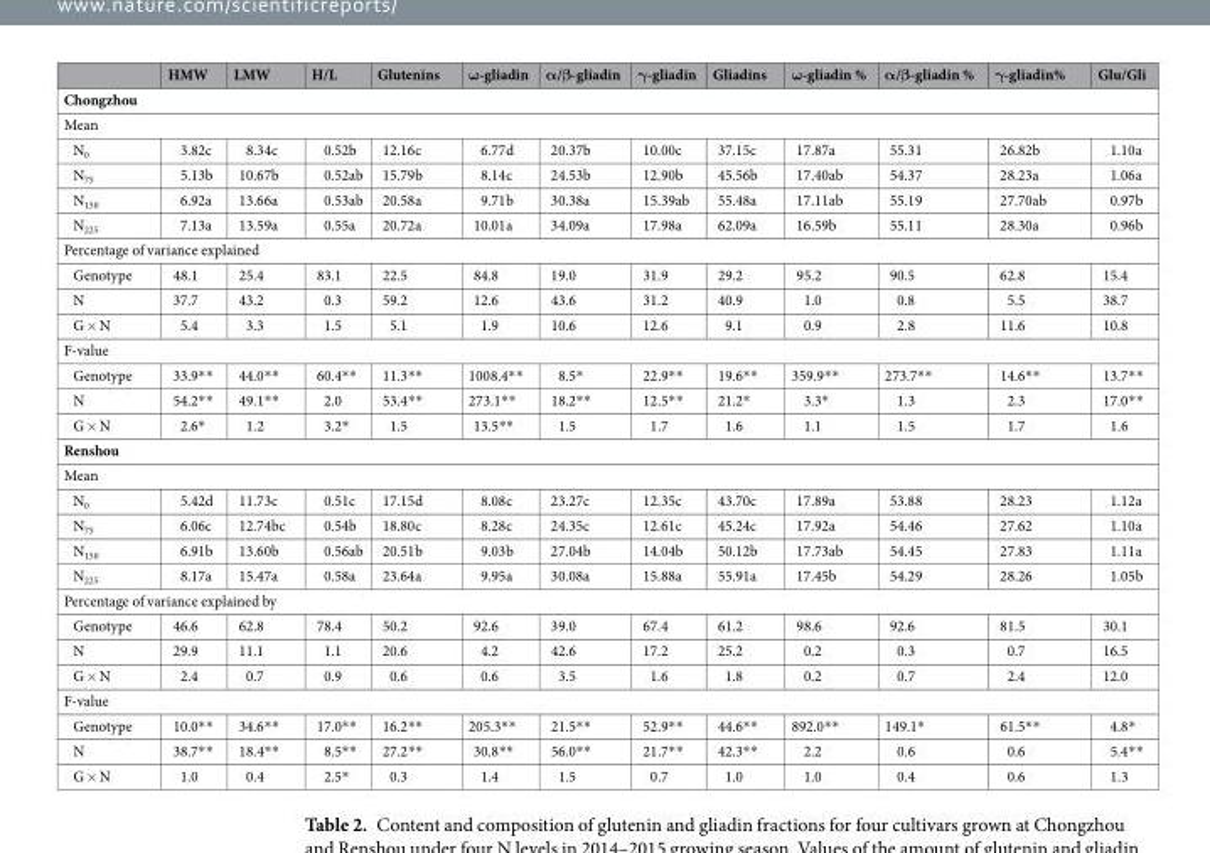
<table><thead><tr><td></td><td>HMW</td><td>LMW</td><td>H/L</td><td>Glutenins</td><td>ω-gliadin</td><td>α/β-gliadin</td><td>γ-gliadin</td><td>Gliadins</td><td>ω-gliadin %</td><td>α/β-gliadin %</td><td>γ-gliadin%</td><td>Glu/Gli</td></tr></thead><tbody><tr><td colspan="13">Chongzhou</td></tr><tr><td colspan="13">Mean</td></tr><tr><td>N<sub>0</sub></td><td>3.82c</td><td>8.34c</td><td>0.52b</td><td>12.16c</td><td>6.77d</td><td>20.37b</td><td>10.00c</td><td>37.15c</td><td>17.87a</td><td>55.31</td><td>26.82b</td><td>1.10a</td></tr><tr><td>N<sub>75</sub></td><td>5.13b</td><td>10.67b</td><td>0.52ab</td><td>15.79b</td><td>8.14c</td><td>24.53b</td><td>12.90b</td><td>45.56b</td><td>17.40ab</td><td>54.37</td><td>28.23a</td><td>1.06a</td></tr><tr><td>N<sub>150</sub></td><td>6.92a</td><td>13.66a</td><td>0.53ab</td><td>20.58a</td><td>9.71b</td><td>30.38a</td><td>15.39ab</td><td>55.48a</td><td>17.11ab</td><td>55.19</td><td>27.70ab</td><td>0.97b</td></tr><tr><td>N<sub>225</sub></td><td>7.13a</td><td>13.59a</td><td>0.55a</td><td>20.72a</td><td>10.01a</td><td>34.09a</td><td>17.98a</td><td>62.09a</td><td>16.59b</td><td>55.11</td><td>28.30a</td><td>0.96b</td></tr><tr><td colspan="13">Percentage of variance explained</td></tr><tr><td>Genotype</td><td>48.1</td><td>25.4</td><td>83.1</td><td>22.5</td><td>84.8</td><td>19.0</td><td>31.9</td><td>29.2</td><td>95.2</td><td>90.5</td><td>62.8</td><td>15.4</td></tr><tr><td>N</td><td>37.7</td><td>43.2</td><td>0.3</td><td>59.2</td><td>12.6</td><td>43.6</td><td>31.2</td><td>40.9</td><td>1.0</td><td>0.8</td><td>5.5</td><td>38.7</td></tr><tr><td>G × N</td><td>5.4</td><td>3.3</td><td>1.5</td><td>5.1</td><td>1.9</td><td>10.6</td><td>12.6</td><td>9.1</td><td>0.9</td><td>2.8</td><td>11.6</td><td>10.8</td></tr><tr><td colspan="13">F-value</td></tr><tr><td>Genotype</td><td>33.9**</td><td>44.0**</td><td>60.4**</td><td>11.3**</td><td>1008.4**</td><td>8.5*</td><td>22.9**</td><td>19.6**</td><td>359.9**</td><td>273.7**</td><td>14.6**</td><td>13.7**</td></tr><tr><td>N</td><td>54.2**</td><td>49.1**</td><td>2.0</td><td>53.4**</td><td>273.1**</td><td>18.2**</td><td>12.5**</td><td>21.2*</td><td>3.3*</td><td>1.3</td><td>2.3</td><td>17.0**</td></tr><tr><td>G × N</td><td>2.6*</td><td>1.2</td><td>3.2*</td><td>1.5</td><td>13.5**</td><td>1.5</td><td>1.7</td><td>1.6</td><td>1.1</td><td>1.5</td><td>1.7</td><td>1.6</td></tr><tr><td colspan="13">Renshou</td></tr><tr><td colspan="13">Mean</td></tr><tr><td>N<sub>0</sub></td><td>5.42d</td><td>11.73c</td><td>0.51c</td><td>17.15d</td><td>8.08c</td><td>23.27c</td><td>12.35c</td><td>43.70c</td><td>17.89a</td><td>53.88</td><td>28.23</td><td>1.12a</td></tr><tr><td>N<sub>75</sub></td><td>6.06c</td><td>12.74bc</td><td>0.54b</td><td>18.80c</td><td>8.28c</td><td>24.35c</td><td>12.61c</td><td>45.24c</td><td>17.92a</td><td>54.46</td><td>27.62</td><td>1.10a</td></tr><tr><td>N<sub>150</sub></td><td>6.91b</td><td>13.60b</td><td>0.56ab</td><td>20.51b</td><td>9.03b</td><td>27.04b</td><td>14.04b</td><td>50.12b</td><td>17.73ab</td><td>54.45</td><td>27.83</td><td>1.11a</td></tr><tr><td>N<sub>225</sub></td><td>8.17a</td><td>15.47a</td><td>0.58a</td><td>23.64a</td><td>9.95a</td><td>30.08a</td><td>15.88a</td><td>55.91a</td><td>17.45b</td><td>54.29</td><td>28.26</td><td>1.05b</td></tr><tr><td colspan="13">Percentage of variance explained by</td></tr><tr><td>Genotype</td><td>46.6</td><td>62.8</td><td>78.4</td><td>50.2</td><td>92.6</td><td>39.0</td><td>67.4</td><td>61.2</td><td>98.6</td><td>92.6</td><td>81.5</td><td>30.1</td></tr><tr><td>N</td><td>29.9</td><td>11.1</td><td>1.1</td><td>20.6</td><td>4.2</td><td>42.6</td><td>17.2</td><td>25.2</td><td>0.2</td><td>0.3</td><td>0.7</td><td>16.5</td></tr><tr><td>G × N</td><td>2.4</td><td>0.7</td><td>0.9</td><td>0.6</td><td>0.6</td><td>3.5</td><td>1.6</td><td>1.8</td><td>0.2</td><td>0.7</td><td>2.4</td><td>12.0</td></tr><tr><td colspan="13">F-value</td></tr><tr><td>Genotype</td><td>10.0**</td><td>34.6**</td><td>17.0**</td><td>16.2**</td><td>205.3**</td><td>21.5**</td><td>52.9**</td><td>44.6**</td><td>892.0**</td><td>149.1*</td><td>61.5**</td><td>4.8*</td></tr><tr><td>N</td><td>38.7**</td><td>18.4**</td><td>8.5**</td><td>27.2**</td><td>30.8**</td><td>56.0**</td><td>21.7**</td><td>42.3**</td><td>2.2</td><td>0.6</td><td>0.6</td><td>5.4**</td></tr><tr><td>G × N</td><td>1.0</td><td>0.4</td><td>2.5*</td><td>0.3</td><td>1.4</td><td>1.5</td><td>0.7</td><td>1.0</td><td>1.0</td><td>0.4</td><td>0.6</td><td>1.3</td></tr></tbody></table>